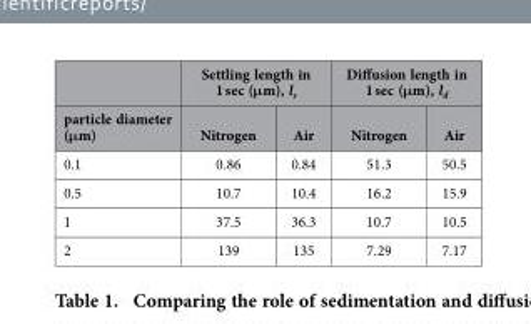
<table><thead><tr><td rowspan="2">particle diameter (μm)</td><td colspan="2">Settling length in 1 sec (μm), l<sub>s</sub></td><td colspan="2">Diffusion length in 1 sec (μm), l<sub>d</sub></td></tr><tr><td>Nitrogen</td><td>Air</td><td>Nitrogen</td><td>Air</td></tr></thead><tbody><tr><td>0.1</td><td>0.86</td><td>0.84</td><td>51.3</td><td>50.5</td></tr><tr><td>0.5</td><td>10.7</td><td>10.4</td><td>16.2</td><td>15.9</td></tr><tr><td>1</td><td>37.5</td><td>36.3</td><td>10.7</td><td>10.5</td></tr><tr><td>2</td><td>139</td><td>135</td><td>7.29</td><td>7.17</td></tr></tbody></table>